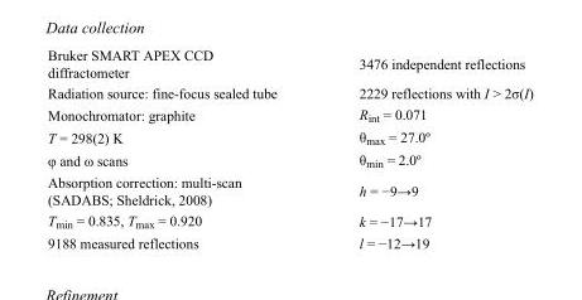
<table><tbody><tr><td>Bruker SMART APEX CCD diffractometer</td><td>3476 independent reflections</td></tr><tr><td>Radiation source: fine-focus sealed tube</td><td>2229 reflections with I &gt; 2σ(I)</td></tr><tr><td>Monochromator: graphite</td><td>R<sub>int</sub> = 0.071</td></tr><tr><td>T = 298(2) K</td><td>θ<sub>max</sub> = 27.0º</td></tr><tr><td>φ and ω scans</td><td>θ<sub>min</sub> = 2.0º</td></tr><tr><td>Absorption correction: multi-scan (SADABS; Sheldrick, 2008)</td><td>h = −9→9</td></tr><tr><td>T<sub>min</sub> = 0.835, T<sub>max</sub> = 0.920</td><td>k = −17→17</td></tr><tr><td>9188 measured reflections</td><td>l = −12→19</td></tr></tbody></table>